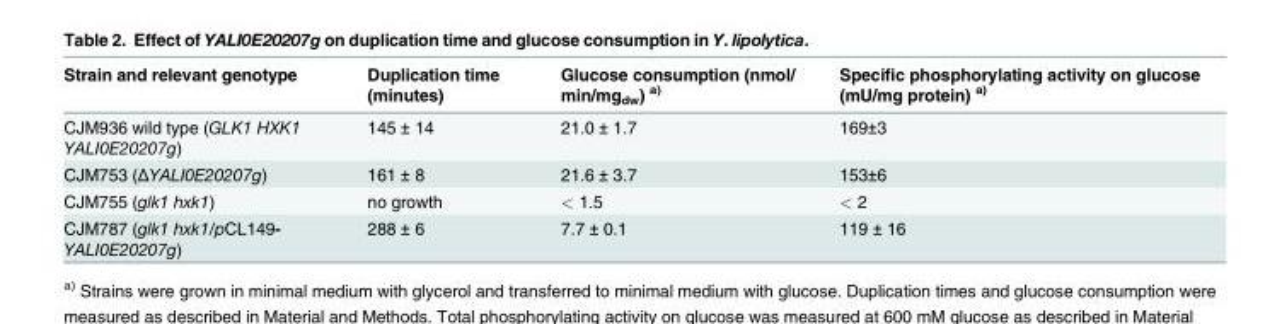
<table><thead><tr><td>Strain and relevant genotype</td><td>Duplication time (minutes)</td><td>Glucose consumption (nmol/ min/mg<sub>dw</sub>) <sup>a)</sup></td><td>Specific phosphorylating activity on glucose (mU/mg protein) <sup>a)</sup></td></tr></thead><tbody><tr><td>CJM936 wild type (GLK1 HXK1 YALI0E20207g)</td><td>145 ± 14</td><td>21.0 ± 1.7</td><td>169±3</td></tr><tr><td>CJM753 (ΔYALI0E20207g)</td><td>161 ± 8</td><td>21.6 ± 3.7</td><td>153±6</td></tr><tr><td>CJM755 (glk1 hxk1)</td><td>no growth</td><td>&lt; 1.5</td><td>&lt; 2</td></tr><tr><td>CJM787 (glk1 hxk1/pCL149- YALI0E20207g)</td><td>288 ± 6</td><td>7.7 ± 0.1</td><td>119 ± 16</td></tr></tbody></table>